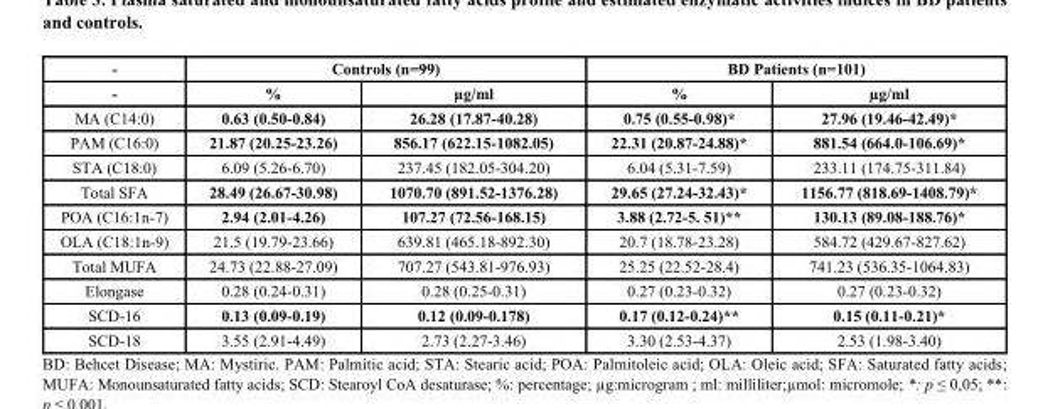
<table><thead><tr><td rowspan="2">- -</td><td colspan="2">Controls (n=99)</td><td colspan="2">BD Patients (n=101)</td></tr><tr><td>%</td><td>µg/ml</td><td>%</td><td>µg/ml</td></tr></thead><tbody><tr><td>MA (C14:0)</td><td>0.63 (0.50-0.84)</td><td>26.28 (17.87-40.28)</td><td>0.75 (0.55-0.98)*</td><td>27.96 (19.46-42.49)*</td></tr><tr><td>PAM (C16:0)</td><td>21.87 (20.25-23.26)</td><td>856.17 (622.15-1082.05)</td><td>22.31 (20.87-24.88)*</td><td>881.54 (664.0-106.69)*</td></tr><tr><td>STA (C18:0)</td><td>6.09 (5.26-6.70)</td><td>237.45 (182.05-304.20)</td><td>6.04 (5.31-7.59)</td><td>233.11 (174.75-311.84)</td></tr><tr><td>Total SFA</td><td>28.49 (26.67-30.98)</td><td>1070.70 (891.52-1376.28)</td><td>29.65 (27.24-32.43)*</td><td>1156.77 (818.69-1408.79)*</td></tr><tr><td>POA (C16:1n-7)</td><td>2.94 (2.01-4.26)</td><td>107.27 (72.56-168.15)</td><td>3.88 (2.72-5. 51)**</td><td>130.13 (89.08-188.76)*</td></tr><tr><td>OLA (C18:1n-9)</td><td>21.5 (19.79-23.66)</td><td>639.81 (465.18-892.30)</td><td>20.7 (18.78-23.28)</td><td>584.72 (429.67-827.62)</td></tr><tr><td>Total MUFA</td><td>24.73 (22.88-27.09)</td><td>707.27 (543.81-976.93)</td><td>25.25 (22.52-28.4)</td><td>741.23 (536.35-1064.83)</td></tr><tr><td>Elongase</td><td>0.28 (0.24-0.31)</td><td>0.28 (0.25-0.31)</td><td>0.27 (0.23-0.32)</td><td>0.27 (0.23-0.32)</td></tr><tr><td>SCD-16</td><td>0.13 (0.09-0.19)</td><td>0.12 (0.09-0.178)</td><td>0.17 (0.12-0.24)**</td><td>0.15 (0.11-0.21)*</td></tr><tr><td>SCD-18</td><td>3.55 (2.91-4.49)</td><td>2.73 (2.27-3.46)</td><td>3.30 (2.53-4.37)</td><td>2.53 (1.98-3.40)</td></tr></tbody></table>